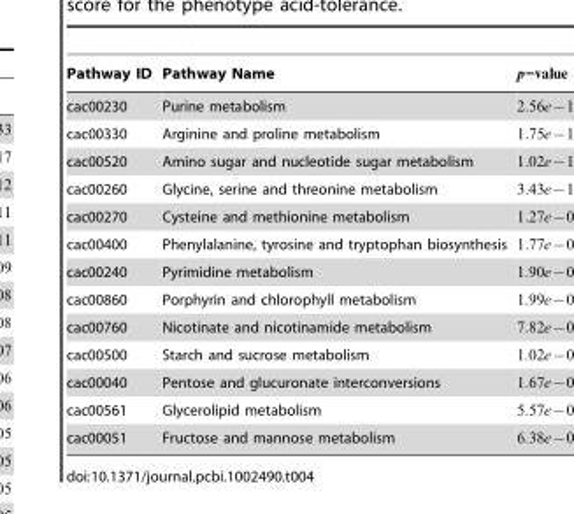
<table><thead><tr><td>Pathway ID</td><td>Pathway Name</td></tr></thead><tbody><tr><td>cac00230</td><td>Purine metabolism</td></tr><tr><td>cac00330</td><td>Arginine and proline metabolism</td></tr><tr><td>cac00520</td><td>Amino sugar and nucleotide sugar metabolism</td></tr><tr><td>cac00260</td><td>Glycine, serine and threonine metabolism</td></tr><tr><td>cac00270</td><td>Cysteine and methionine metabolism</td></tr><tr><td>cac00400</td><td>Phenylalanine, tyrosine and tryptophan biosynthesis</td></tr><tr><td>cac00240</td><td>Pyrimidine metabolism</td></tr><tr><td>cac00860</td><td>Porphyrin and chlorophyll metabolism</td></tr><tr><td>cac00760</td><td>Nicotinate and nicotinamide metabolism</td></tr><tr><td>cac00500</td><td>Starch and sucrose metabolism</td></tr><tr><td>cac00040</td><td>Pentose and glucuronate interconversions</td></tr><tr><td>cac00561</td><td>Glycerolipid metabolism</td></tr><tr><td>cac00051</td><td>Fructose and mannose metabolism</td></tr></tbody></table>